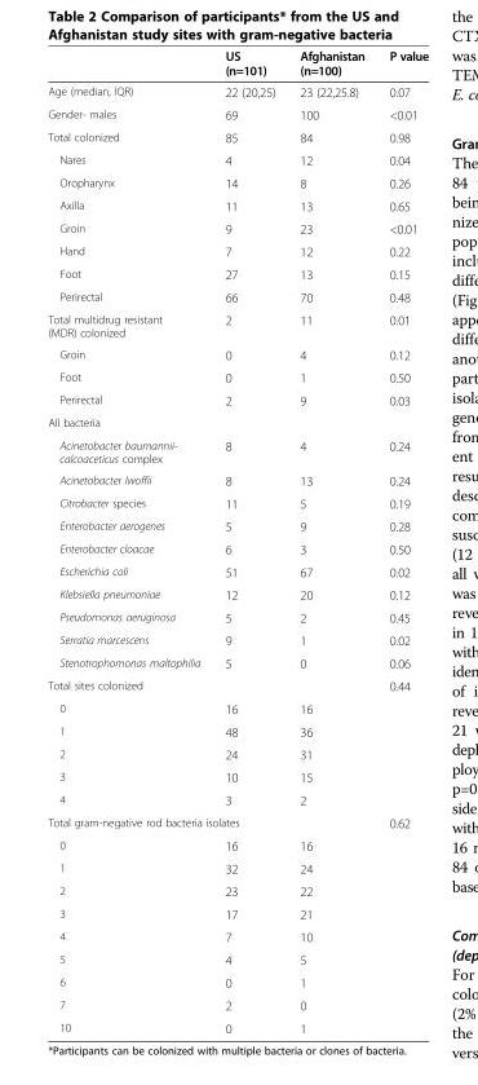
<table><thead><tr><td></td><td>US (n=101)</td><td>Afghanistan (n=100)</td><td>P value</td></tr></thead><tbody><tr><td>Age (median, IQR)</td><td>22 (20,25)</td><td>23 (22,25.8)</td><td>0.07</td></tr><tr><td>Gender- males</td><td>69</td><td>100</td><td>&lt;0.01</td></tr><tr><td>Total colonized</td><td>85</td><td>84</td><td>0.98</td></tr><tr><td>Nares</td><td>4</td><td>12</td><td>0.04</td></tr><tr><td>Oropharynx</td><td>14</td><td>8</td><td>0.26</td></tr><tr><td>Axilla</td><td>11</td><td>13</td><td>0.65</td></tr><tr><td>Groin</td><td>9</td><td>23</td><td>&lt;0.01</td></tr><tr><td>Hand</td><td>7</td><td>12</td><td>0.22</td></tr><tr><td>Foot</td><td>27</td><td>13</td><td>0.15</td></tr><tr><td>Perirectal</td><td>66</td><td>70</td><td>0.48</td></tr><tr><td>Total multidrug resistant (MDR) colonized</td><td>2</td><td>11</td><td>0.01</td></tr><tr><td>Groin</td><td>0</td><td>4</td><td>0.12</td></tr><tr><td>Foot</td><td>0</td><td>1</td><td>0.50</td></tr><tr><td>Perirectal</td><td>2</td><td>9</td><td>0.03</td></tr><tr><td colspan="4">All bacteria</td></tr><tr><td>Acinetobacter baumannii- calcoaceticus complex</td><td>8</td><td>4</td><td>0.24</td></tr><tr><td>Acinetobacter lwoffii</td><td>8</td><td>13</td><td>0.24</td></tr><tr><td>Citrobacter species</td><td>11</td><td>5</td><td>0.19</td></tr><tr><td>Enterobacter aerogenes</td><td>5</td><td>9</td><td>0.28</td></tr><tr><td>Enterobacter cloacae</td><td>6</td><td>3</td><td>0.50</td></tr><tr><td>Escherichia coli</td><td>51</td><td>67</td><td>0.02</td></tr><tr><td>Klebsiella pneumoniae</td><td>12</td><td>20</td><td>0.12</td></tr><tr><td>Pseudomonas aeruginosa</td><td>5</td><td>2</td><td>0.45</td></tr><tr><td>Serratia marcescens</td><td>9</td><td>1</td><td>0.02</td></tr><tr><td>Stenotrophomonas maltophilia</td><td>5</td><td>0</td><td>0.06</td></tr><tr><td>Total sites colonized</td><td></td><td></td><td>0.44</td></tr><tr><td>0</td><td>16</td><td>16</td><td></td></tr><tr><td>1</td><td>48</td><td>36</td><td></td></tr><tr><td>2</td><td>24</td><td>31</td><td></td></tr><tr><td>3</td><td>10</td><td>15</td><td></td></tr><tr><td>4</td><td>3</td><td>2</td><td></td></tr><tr><td colspan="2">Total gram-negative rod bacteria isolates</td><td></td><td>0.62</td></tr><tr><td>0</td><td>16</td><td>16</td><td></td></tr><tr><td>1</td><td>32</td><td>24</td><td></td></tr><tr><td>2</td><td>23</td><td>22</td><td></td></tr><tr><td>3</td><td>17</td><td>21</td><td></td></tr><tr><td>4</td><td>7</td><td>10</td><td></td></tr><tr><td>5</td><td>4</td><td>5</td><td></td></tr><tr><td>6</td><td>0</td><td>1</td><td></td></tr><tr><td>7</td><td>2</td><td>0</td><td></td></tr><tr><td>10</td><td>0</td><td>1</td><td></td></tr></tbody></table>